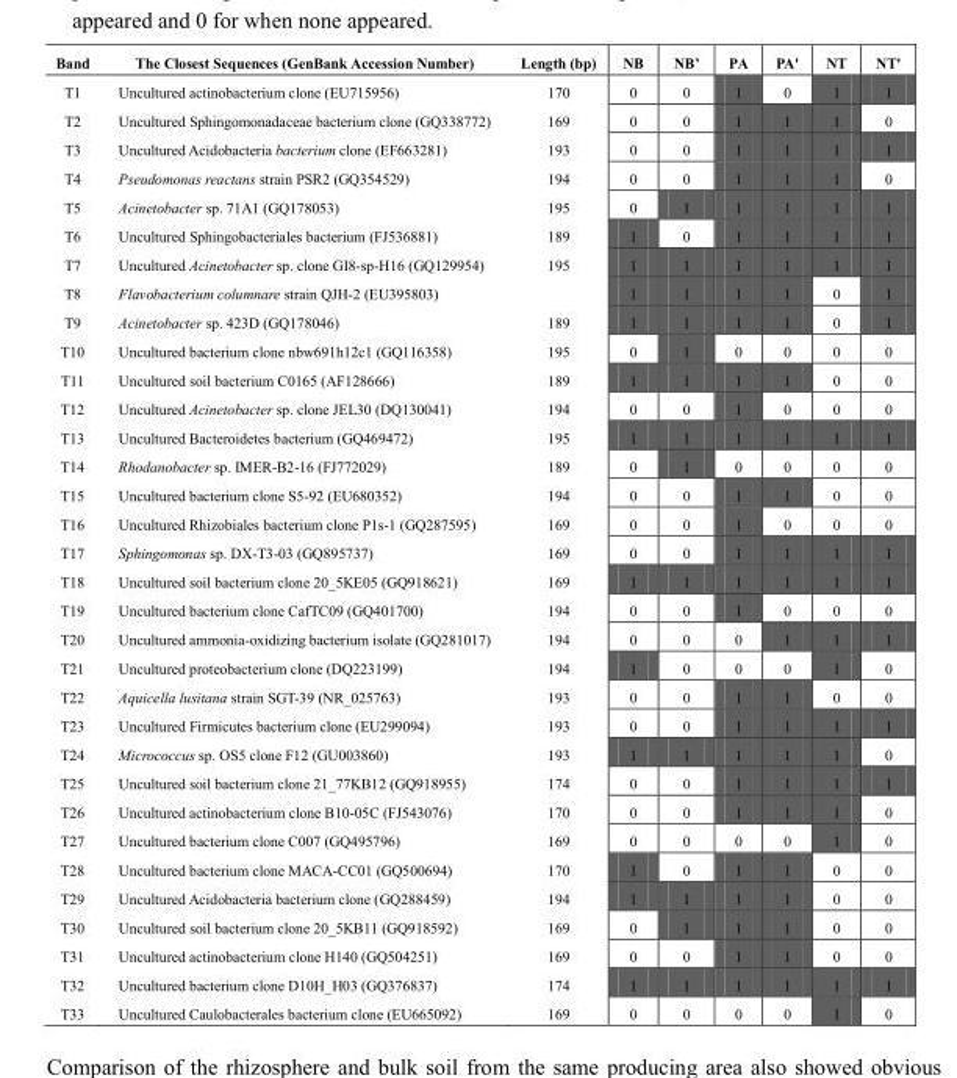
<table><thead><tr><td>Band</td><td>The Closest Sequences (GenBank Accession Number)</td><td>Length (bp)</td><td>NB</td><td>NB’</td><td>PA</td><td>PA&#x27;</td><td>NT</td><td>NT&#x27;</td></tr></thead><tbody><tr><td>T1</td><td>Uncultured actinobacterium clone (EU715956)</td><td>170</td><td>0</td><td>0</td><td>1</td><td>0</td><td>1</td><td>1</td></tr><tr><td>T2</td><td>Uncultured Sphingomonadaceae bacterium clone (GQ338772)</td><td>169</td><td>0</td><td>0</td><td>1</td><td>1</td><td>1</td><td>0</td></tr><tr><td>T3</td><td>Uncultured Acidobacteria bacterium clone (EF663281)</td><td>193</td><td>0</td><td>0</td><td>1</td><td>1</td><td>1</td><td>1</td></tr><tr><td>T4</td><td>Pseudomonas reactans strain PSR2 (GQ354529)</td><td>194</td><td>0</td><td>0</td><td>1</td><td>1</td><td>1</td><td>0</td></tr><tr><td>T5</td><td>Acinetobacter sp. 71A1 (GQ178053)</td><td>195</td><td>0</td><td>1</td><td>1</td><td>1</td><td>1</td><td>1</td></tr><tr><td>T6</td><td>Uncultured Sphingobacteriales bacterium (FJ536881)</td><td>189</td><td>1</td><td>0</td><td>1</td><td>1</td><td>1</td><td>1</td></tr><tr><td>T7</td><td>Uncultured Acinetobacter sp. clone GI8-sp-H16 (GQ129954)</td><td>195</td><td>1</td><td>1</td><td>1</td><td>1</td><td>1</td><td>1</td></tr><tr><td>T8</td><td>Flavobacterium columnare strain QJH-2 (EU395803)</td><td></td><td>1</td><td>1</td><td>1</td><td>1</td><td>0</td><td>1</td></tr><tr><td>T9</td><td>Acinetobacter sp. 423D (GQ178046)</td><td>189</td><td>1</td><td>1</td><td>1</td><td>1</td><td>0</td><td>1</td></tr><tr><td>T10</td><td>Uncultured bacterium clone nbw691h12c1 (GQ116358)</td><td>195</td><td>0</td><td>1</td><td>0</td><td>0</td><td>0</td><td>0</td></tr><tr><td>T11</td><td>Uncultured soil bacterium C0165 (AF128666)</td><td>189</td><td>1</td><td>1</td><td>1</td><td>1</td><td>0</td><td>0</td></tr><tr><td>T12</td><td>Uncultured Acinetobacter sp. clone JEL30 (DQ130041)</td><td>194</td><td>0</td><td>0</td><td>1</td><td>0</td><td>0</td><td>0</td></tr><tr><td>T13</td><td>Uncultured Bacteroidetes bacterium (GQ469472)</td><td>195</td><td>1</td><td>1</td><td>1</td><td>1</td><td>1</td><td>1</td></tr><tr><td>T14</td><td>Rhodanobacter sp. IMER-B2-16 (FJ772029)</td><td>189</td><td>0</td><td>1</td><td>0</td><td>0</td><td>0</td><td>0</td></tr><tr><td>T15</td><td>Uncultured bacterium clone S5-92 (EU680352)</td><td>194</td><td>0</td><td>0</td><td>1</td><td>1</td><td>0</td><td>0</td></tr><tr><td>T16</td><td>Uncultured Rhizobiales bacterium clone P1s-1 (GQ287595)</td><td>169</td><td>0</td><td>0</td><td>1</td><td>0</td><td>0</td><td>0</td></tr><tr><td>T17</td><td>Sphingomonas sp. DX-T3-03 (GQ895737)</td><td>169</td><td>0</td><td>0</td><td>1</td><td>1</td><td>1</td><td>1</td></tr><tr><td>T18</td><td>Uncultured soil bacterium clone 20_5KE05 (GQ918621)</td><td>169</td><td>1</td><td>1</td><td>1</td><td>1</td><td>1</td><td>1</td></tr><tr><td>T19</td><td>Uncultured bacterium clone CafTC09 (GQ401700)</td><td>194</td><td>0</td><td>0</td><td>1</td><td>0</td><td>0</td><td>0</td></tr><tr><td>T20</td><td>Uncultured ammonia-oxidizing bacterium isolate (GQ281017)</td><td>194</td><td>0</td><td>0</td><td>0</td><td>1</td><td>1</td><td>1</td></tr><tr><td>T21</td><td>Uncultured proteobacterium clone (DQ223199)</td><td>194</td><td>1</td><td>0</td><td>0</td><td>0</td><td>1</td><td>0</td></tr><tr><td>T22</td><td>Aquicella lusitana strain SGT-39 (NR_025763)</td><td>193</td><td>0</td><td>0</td><td>1</td><td>1</td><td>0</td><td>0</td></tr><tr><td>T23</td><td>Uncultured Firmicutes bacterium clone (EU299094)</td><td>193</td><td>0</td><td>0</td><td>1</td><td>1</td><td>1</td><td>1</td></tr><tr><td>T24</td><td>Micrococcus sp. OS5 clone F12 (GU003860)</td><td>193</td><td>1</td><td>1</td><td>1</td><td>1</td><td>1</td><td>0</td></tr><tr><td>T25</td><td>Uncultured soil bacterium clone 21_77KB12 (GQ918955)</td><td>174</td><td>0</td><td>0</td><td>1</td><td>1</td><td>1</td><td>1</td></tr><tr><td>T26</td><td>Uncultured actinobacterium clone B10-05C (FJ543076)</td><td>170</td><td>0</td><td>0</td><td>1</td><td>1</td><td>1</td><td>0</td></tr><tr><td>T27</td><td>Uncultured bacterium clone C007 (GQ495796)</td><td>169</td><td>0</td><td>0</td><td>0</td><td>0</td><td>1</td><td>0</td></tr><tr><td>T28</td><td>Uncultured bacterium clone MACA-CC01 (GQ500694)</td><td>170</td><td>1</td><td>0</td><td>1</td><td>1</td><td>0</td><td>0</td></tr><tr><td>T29</td><td>Uncultured Acidobacteria bacterium clone (GQ288459)</td><td>194</td><td>1</td><td>1</td><td>1</td><td>1</td><td>0</td><td>0</td></tr><tr><td>T30</td><td>Uncultured soil bacterium clone 20_5KB11 (GQ918592)</td><td>169</td><td>0</td><td>1</td><td>1</td><td>1</td><td>0</td><td>0</td></tr><tr><td>T31</td><td>Uncultured actinobacterium clone H140 (GQ504251)</td><td>169</td><td>0</td><td>0</td><td>1</td><td>1</td><td>0</td><td>0</td></tr><tr><td>T32</td><td>Uncultured bacterium clone D10H_H03 (GQ376837)</td><td>174</td><td>1</td><td>1</td><td>1</td><td>1</td><td>1</td><td>1</td></tr><tr><td>T33</td><td>Uncultured Caulobacterales bacterium clone (EU665092)</td><td>169</td><td>0</td><td>0</td><td>0</td><td>0</td><td>1</td><td>0</td></tr></tbody></table>